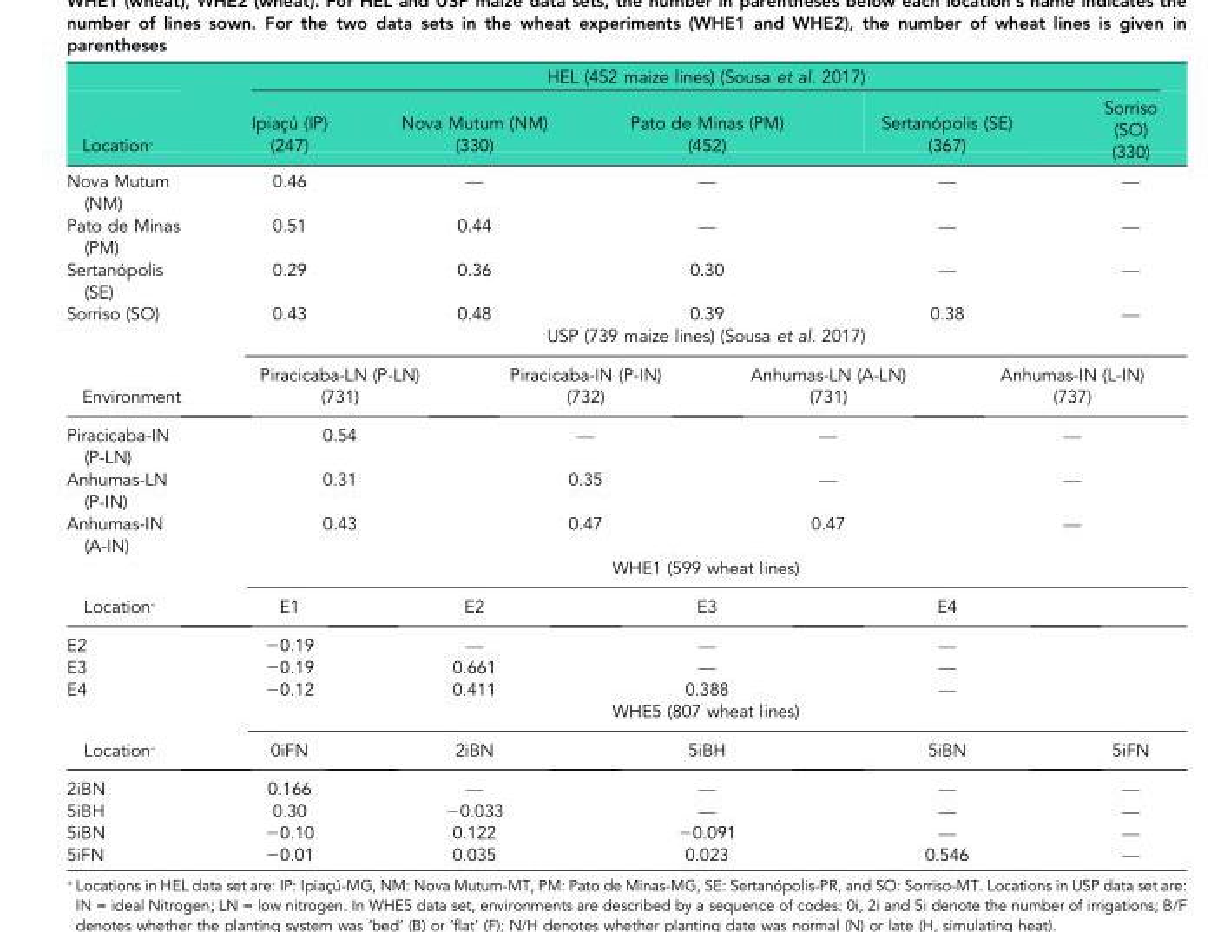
<table><thead><tr><td rowspan="2">Location*</td><td colspan="8">HEL (452 maize lines) (Sousa et al. 2017)</td></tr><tr><td>Ipiaçú (IP) (247)</td><td colspan="2">Nova Mutum (NM) (330)</td><td colspan="2">Pato de Minas (PM) (452)</td><td colspan="2">Sertanópolis (SE) (367)</td><td>Sorriso (SO) (330)</td></tr></thead><tbody><tr><td>Nova Mutum (NM)</td><td>0.46</td><td colspan="2">—</td><td colspan="2">—</td><td colspan="2">—</td><td>—</td></tr><tr><td>Pato de Minas (PM)</td><td>0.51</td><td colspan="2">0.44</td><td colspan="2">—</td><td colspan="2">—</td><td>—</td></tr><tr><td>Sertanópolis (SE)</td><td>0.29</td><td colspan="2">0.36</td><td colspan="2">0.30</td><td colspan="2">—</td><td>—</td></tr><tr><td rowspan="2">Sorriso (SO)</td><td>0.43</td><td colspan="2">0.48</td><td colspan="2">0.39</td><td colspan="2">0.38</td><td>—</td></tr><tr><td colspan="8">USP (739 maize lines) (Sousa et al. 2017)</td></tr><tr><td>Environment</td><td colspan="2">Piracicaba-LN (P-LN) (731)</td><td colspan="2">Piracicaba-IN (P-IN) (732)</td><td colspan="2">Anhumas-LN (A-LN) (731)</td><td colspan="2">Anhumas-IN (L-IN) (737)</td></tr><tr><td>Piracicaba-IN (P-LN)</td><td colspan="2">0.54</td><td colspan="2">—</td><td colspan="2">—</td><td colspan="2">—</td></tr><tr><td>Anhumas-LN (P-IN)</td><td colspan="2">0.31</td><td colspan="2">0.35</td><td colspan="2">—</td><td colspan="2">—</td></tr><tr><td rowspan="2">Anhumas-IN (A-IN)</td><td colspan="2">0.43</td><td colspan="2">0.47</td><td colspan="2">0.47</td><td colspan="2">—</td></tr><tr><td colspan="8">WHE1 (599 wheat lines)</td></tr><tr><td>Location*</td><td>E1</td><td colspan="2">E2</td><td colspan="2">E3</td><td colspan="2">E4</td><td></td></tr><tr><td>E2</td><td>−0.19</td><td colspan="2">—</td><td colspan="2">—</td><td colspan="2">—</td><td></td></tr><tr><td>E3</td><td>−0.19</td><td colspan="2">0.661</td><td colspan="2">—</td><td colspan="2">—</td><td></td></tr><tr><td rowspan="2">E4</td><td>−0.12</td><td colspan="2">0.411</td><td colspan="2">0.388</td><td colspan="2">—</td><td></td></tr><tr><td colspan="8">WHE5 (807 wheat lines)</td></tr><tr><td>Location*</td><td>0iFN</td><td colspan="2">2iBN</td><td colspan="2">5iBH</td><td colspan="2">5iBN</td><td>5iFN</td></tr><tr><td>2iBN</td><td>0.166</td><td colspan="2">—</td><td colspan="2">—</td><td colspan="2">—</td><td>—</td></tr><tr><td>5iBH</td><td>0.30</td><td colspan="2">−0.033</td><td colspan="2">—</td><td colspan="2">—</td><td>—</td></tr><tr><td>5iBN</td><td>−0.10</td><td colspan="2">0.122</td><td colspan="2">−0.091</td><td colspan="2">—</td><td>—</td></tr><tr><td>5iFN</td><td>−0.01</td><td colspan="2">0.035</td><td colspan="2">0.023</td><td colspan="2">0.546</td><td>—</td></tr></tbody></table>